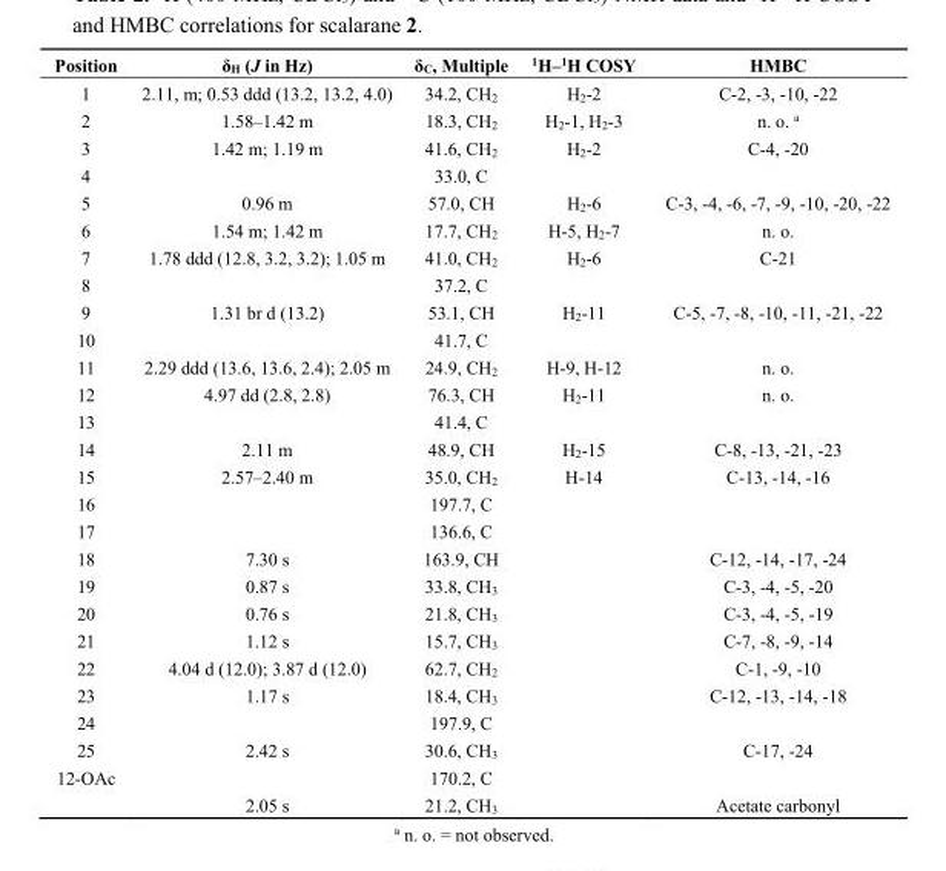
<table><thead><tr><td>Position</td><td>δ<sub>H</sub> (J in Hz)</td><td>δ<sub>C</sub>, Multiple</td><td><sup>1</sup>H–<sup>1</sup>H COSY</td><td>HMBC</td></tr></thead><tbody><tr><td>1</td><td>2.11, m; 0.53 ddd (13.2, 13.2, 4.0)</td><td>34.2, CH<sub>2</sub></td><td>H<sub>2</sub>-2</td><td>C-2, -3, -10, -22</td></tr><tr><td>2</td><td>1.58–1.42 m</td><td>18.3, CH<sub>2</sub></td><td>H<sub>2</sub>-1, H<sub>2</sub>-3</td><td>n. o. <sup>a</sup></td></tr><tr><td>3</td><td>1.42 m; 1.19 m</td><td>41.6, CH<sub>2</sub></td><td>H<sub>2</sub>-2</td><td>C-4, -20</td></tr><tr><td>4</td><td></td><td>33.0, C</td><td></td><td></td></tr><tr><td>5</td><td>0.96 m</td><td>57.0, CH</td><td>H<sub>2</sub>-6</td><td>C-3, -4, -6, -7, -9, -10, -20, -22</td></tr><tr><td>6</td><td>1.54 m; 1.42 m</td><td>17.7, CH<sub>2</sub></td><td>H-5, H<sub>2</sub>-7</td><td>n. o.</td></tr><tr><td>7</td><td>1.78 ddd (12.8, 3.2, 3.2); 1.05 m</td><td>41.0, CH<sub>2</sub></td><td>H<sub>2</sub>-6</td><td>C-21</td></tr><tr><td>8</td><td></td><td>37.2, C</td><td></td><td></td></tr><tr><td>9</td><td>1.31 br d (13.2)</td><td>53.1, CH</td><td>H<sub>2</sub>-11</td><td>C-5, -7, -8, -10, -11, -21, -22</td></tr><tr><td>10</td><td></td><td>41.7, C</td><td></td><td></td></tr><tr><td>11</td><td>2.29 ddd (13.6, 13.6, 2.4); 2.05 m</td><td>24.9, CH<sub>2</sub></td><td>H-9, H-12</td><td>n. o.</td></tr><tr><td>12</td><td>4.97 dd (2.8, 2.8)</td><td>76.3, CH</td><td>H<sub>2</sub>-11</td><td>n. o.</td></tr><tr><td>13</td><td></td><td>41.4, C</td><td></td><td></td></tr><tr><td>14</td><td>2.11 m</td><td>48.9, CH</td><td>H<sub>2</sub>-15</td><td>C-8, -13, -21, -23</td></tr><tr><td>15</td><td>2.57–2.40 m</td><td>35.0, CH<sub>2</sub></td><td>H-14</td><td>C-13, -14, -16</td></tr><tr><td>16</td><td></td><td>197.7, C</td><td></td><td></td></tr><tr><td>17</td><td></td><td>136.6, C</td><td></td><td></td></tr><tr><td>18</td><td>7.30 s</td><td>163.9, CH</td><td></td><td>C-12, -14, -17, -24</td></tr><tr><td>19</td><td>0.87 s</td><td>33.8, CH<sub>3</sub></td><td></td><td>C-3, -4, -5, -20</td></tr><tr><td>20</td><td>0.76 s</td><td>21.8, CH<sub>3</sub></td><td></td><td>C-3, -4, -5, -19</td></tr><tr><td>21</td><td>1.12 s</td><td>15.7, CH<sub>3</sub></td><td></td><td>C-7, -8, -9, -14</td></tr><tr><td>22</td><td>4.04 d (12.0); 3.87 d (12.0)</td><td>62.7, CH<sub>2</sub></td><td></td><td>C-1, -9, -10</td></tr><tr><td>23</td><td>1.17 s</td><td>18.4, CH<sub>3</sub></td><td></td><td>C-12, -13, -14, -18</td></tr><tr><td>24</td><td></td><td>197.9, C</td><td></td><td></td></tr><tr><td>25</td><td>2.42 s</td><td>30.6, CH<sub>3</sub></td><td></td><td>C-17, -24</td></tr><tr><td rowspan="2">12-OAc</td><td></td><td>170.2, C</td><td></td><td></td></tr><tr><td>2.05 s</td><td>21.2, CH<sub>3</sub></td><td></td><td>Acetate carbonyl</td></tr></tbody></table>